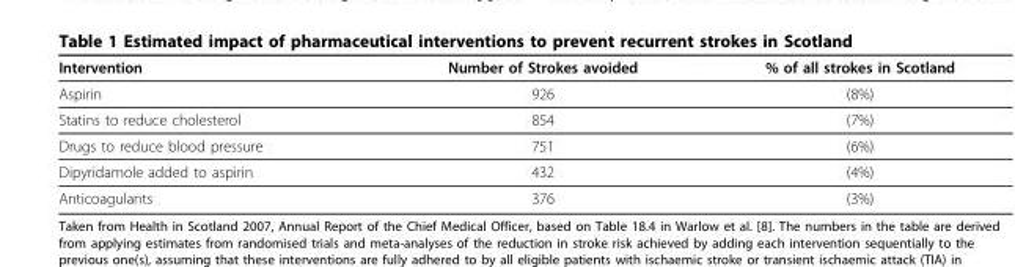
<table><thead><tr><td>Intervention</td><td>Number of Strokes avoided</td><td>% of all strokes in Scotland</td></tr></thead><tbody><tr><td>Aspirin</td><td>926</td><td>(8%)</td></tr><tr><td>Statins to reduce cholesterol</td><td>854</td><td>(7%)</td></tr><tr><td>Drugs to reduce blood pressure</td><td>751</td><td>(6%)</td></tr><tr><td>Dipyridamole added to aspirin</td><td>432</td><td>(4%)</td></tr><tr><td>Anticoagulants</td><td>376</td><td>(3%)</td></tr></tbody></table>